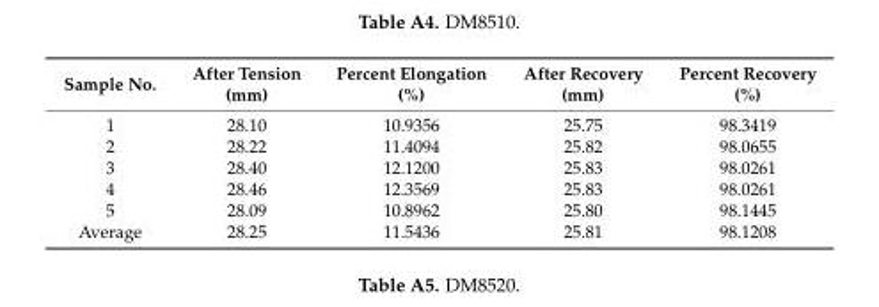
<table><thead><tr><td>Sample No.</td><td>After Tension (mm)</td><td>Percent Elongation (%)</td><td>After Recovery (mm)</td><td>Percent Recovery (%)</td></tr></thead><tbody><tr><td>1</td><td>28.10</td><td>10.9356</td><td>25.75</td><td>98.3419</td></tr><tr><td>2</td><td>28.22</td><td>11.4094</td><td>25.82</td><td>98.0655</td></tr><tr><td>3</td><td>28.40</td><td>12.1200</td><td>25.83</td><td>98.0261</td></tr><tr><td>4</td><td>28.46</td><td>12.3569</td><td>25.83</td><td>98.0261</td></tr><tr><td>5</td><td>28.09</td><td>10.8962</td><td>25.80</td><td>98.1445</td></tr><tr><td>Average</td><td>28.25</td><td>11.5436</td><td>25.81</td><td>98.1208</td></tr></tbody></table>